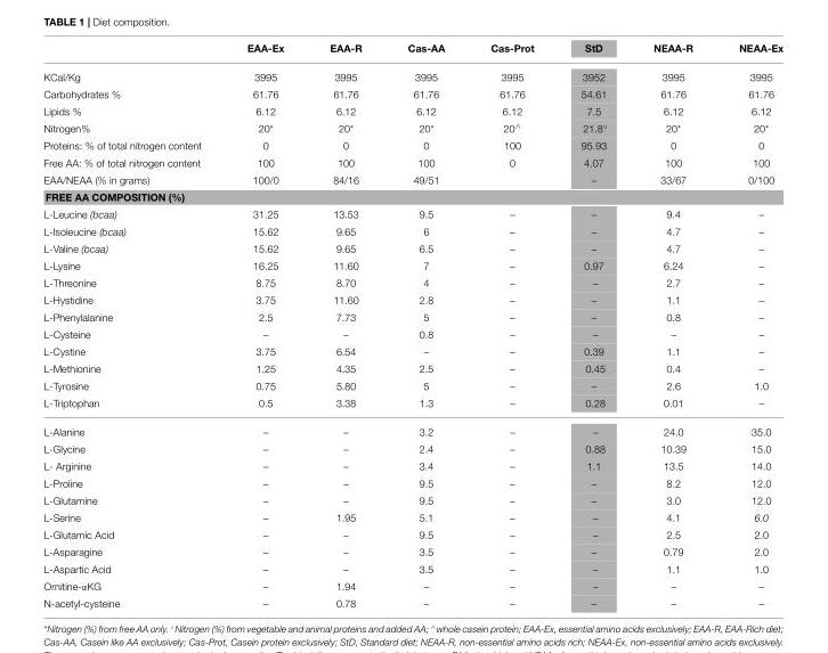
<table><thead><tr><td></td><td>EAA-Ex</td><td>EAA-R</td><td>Cas-AA</td><td>Cas-Prot</td><td>StD</td><td>NEAA-R</td><td>NEAA-Ex</td></tr></thead><tbody><tr><td>KCal/Kg</td><td>3995</td><td>3995</td><td>3995</td><td>3995</td><td>3952</td><td>3995</td><td>3995</td></tr><tr><td>Carbohydrates %</td><td>61.76</td><td>61.76</td><td>61.76</td><td>61.76</td><td>54.61</td><td>61.76</td><td>61.76</td></tr><tr><td>Lipids %</td><td>6.12</td><td>6.12</td><td>6.12</td><td>6.12</td><td>7.5</td><td>6.12</td><td>6.12</td></tr><tr><td>Nitrogen%</td><td>20*</td><td>20*</td><td>20*</td><td>20<sup>∧</sup></td><td>21.8◦</td><td>20*</td><td>20*</td></tr><tr><td>Proteins: % of total nitrogen content</td><td>0</td><td>0</td><td>0</td><td>100</td><td>95.93</td><td>0</td><td>0</td></tr><tr><td>Free AA: % of total nitrogen content</td><td>100</td><td>100</td><td>100</td><td>0</td><td>4.07</td><td>100</td><td>100</td></tr><tr><td>EAA/NEAA (% in grams)</td><td>100/0</td><td>84/16</td><td>49/51</td><td></td><td>–</td><td>33/67</td><td>0/100</td></tr><tr><td colspan="8">FREE AA COMPOSITION (%)</td></tr><tr><td>L-Leucine (bcaa)</td><td>31.25</td><td>13.53</td><td>9.5</td><td>–</td><td>–</td><td>9.4</td><td>–</td></tr><tr><td>L-Isoleucine (bcaa)</td><td>15.62</td><td>9.65</td><td>6</td><td>–</td><td>–</td><td>4.7</td><td>–</td></tr><tr><td>L-Valine (bcaa)</td><td>15.62</td><td>9.65</td><td>6.5</td><td>–</td><td>–</td><td>4.7</td><td>–</td></tr><tr><td>L-Lysine</td><td>16.25</td><td>11.60</td><td>7</td><td>–</td><td>0.97</td><td>6.24</td><td>–</td></tr><tr><td>L-Threonine</td><td>8.75</td><td>8.70</td><td>4</td><td>–</td><td>–</td><td>2.7</td><td>–</td></tr><tr><td>L-Hystidine</td><td>3.75</td><td>11.60</td><td>2.8</td><td>–</td><td>–</td><td>1.1</td><td>–</td></tr><tr><td>L-Phenylalanine</td><td>2.5</td><td>7.73</td><td>5</td><td>–</td><td>–</td><td>0.8</td><td>–</td></tr><tr><td>L-Cysteine</td><td>–</td><td>–</td><td>0.8</td><td>–</td><td>–</td><td>–</td><td>–</td></tr><tr><td>L-Cystine</td><td>3.75</td><td>6.54</td><td>–</td><td>–</td><td>0.39</td><td>1.1</td><td>–</td></tr><tr><td>L-Methionine</td><td>1.25</td><td>4.35</td><td>2.5</td><td>–</td><td>0.45</td><td>0.4</td><td>–</td></tr><tr><td>L-Tyrosine</td><td>0.75</td><td>5.80</td><td>5</td><td>–</td><td>–</td><td>2.6</td><td>1.0</td></tr><tr><td>L-Triptophan</td><td>0.5</td><td>3.38</td><td>1.3</td><td>–</td><td>0.28</td><td>0.01</td><td>–</td></tr><tr><td>L-Alanine</td><td>–</td><td>–</td><td>3.2</td><td>–</td><td>–</td><td>24.0</td><td>35.0</td></tr><tr><td>L-Glycine</td><td>–</td><td>–</td><td>2.4</td><td>–</td><td>0.88</td><td>10.39</td><td>15.0</td></tr><tr><td>L- Arginine</td><td>–</td><td>–</td><td>3.4</td><td>–</td><td>1.1</td><td>13.5</td><td>14.0</td></tr><tr><td>L-Proline</td><td>–</td><td>–</td><td>9.5</td><td>–</td><td>–</td><td>8.2</td><td>12.0</td></tr><tr><td>L-Glutamine</td><td>–</td><td>–</td><td>9.5</td><td>–</td><td>–</td><td>3.0</td><td>12.0</td></tr><tr><td>L-Serine</td><td>–</td><td>1.95</td><td>5.1</td><td>–</td><td>–</td><td>4.1</td><td>6.0</td></tr><tr><td>L-Glutamic Acid</td><td>–</td><td>–</td><td>9.5</td><td>–</td><td>–</td><td>2.5</td><td>2.0</td></tr><tr><td>L-Asparagine</td><td>–</td><td>–</td><td>3.5</td><td>–</td><td>–</td><td>0.79</td><td>2.0</td></tr><tr><td>L-Aspartic Acid</td><td>–</td><td>–</td><td>3.5</td><td>–</td><td>–</td><td>1.1</td><td>1.0</td></tr><tr><td>Ornitine-αKG</td><td>–</td><td>1.94</td><td>–</td><td>–</td><td>–</td><td>–</td><td>–</td></tr><tr><td>N-acetyl-cysteine</td><td>–</td><td>0.78</td><td>–</td><td>–</td><td>–</td><td>–</td><td>–</td></tr></tbody></table>